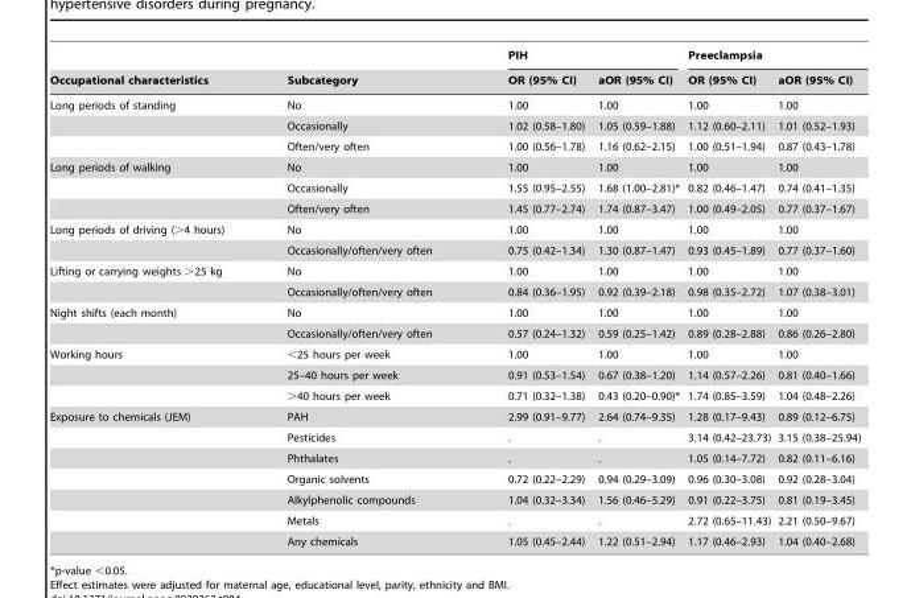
<table><thead><tr><td rowspan="2">Occupational characteristics</td><td rowspan="2">Subcategory</td><td colspan="2">PIH</td><td colspan="2">Preeclampsia</td></tr><tr><td>OR (95% CI)</td><td>aOR (95% CI)</td><td>OR (95% CI)</td><td>aOR (95% CI)</td></tr></thead><tbody><tr><td rowspan="3">Long periods of standing</td><td>No</td><td>1.00</td><td>1.00</td><td>1.00</td><td>1.00</td></tr><tr><td>Occasionally</td><td>1.02 (0.58–1.80)</td><td>1.05 (0.59–1.88)</td><td>1.12 (0.60–2.11)</td><td>1.01 (0.52–1.93)</td></tr><tr><td>Often/very often</td><td>1.00 (0.56–1.78)</td><td>1.16 (0.62–2.15)</td><td>1.00 (0.51–1.94)</td><td>0.87 (0.43–1.78)</td></tr><tr><td rowspan="3">Long periods of walking</td><td>No</td><td>1.00</td><td>1.00</td><td>1.00</td><td>1.00</td></tr><tr><td>Occasionally</td><td>1.55 (0.95–2.55)</td><td>1.68 (1.00–2.81)*</td><td>0.82 (0.46–1.47)</td><td>0.74 (0.41–1.35)</td></tr><tr><td>Often/very often</td><td>1.45 (0.77–2.74)</td><td>1.74 (0.87–3.47)</td><td>1.00 (0.49–2.05)</td><td>0.77 (0.37–1.67)</td></tr><tr><td rowspan="2">Long periods of driving (&gt;4 hours)</td><td>No</td><td>1.00</td><td>1.00</td><td>1.00</td><td>1.00</td></tr><tr><td>Occasionally/often/very often</td><td>0.75 (0.42–1.34)</td><td>1.30 (0.87–1.47)</td><td>0.93 (0.45–1.89)</td><td>0.77 (0.37–1.60)</td></tr><tr><td rowspan="2">Lifting or carrying weights &gt;25 kg</td><td>No</td><td>1.00</td><td>1.00</td><td>1.00</td><td>1.00</td></tr><tr><td>Occasionally/often/very often</td><td>0.84 (0.36–1.95)</td><td>0.92 (0.39–2.18)</td><td>0.98 (0.35–2.72)</td><td>1.07 (0.38–3.01)</td></tr><tr><td rowspan="2">Night shifts (each month)</td><td>No</td><td>1.00</td><td>1.00</td><td>1.00</td><td>1.00</td></tr><tr><td>Occasionally/often/very often</td><td>0.57 (0.24–1.32)</td><td>0.59 (0.25–1.42)</td><td>0.89 (0.28–2.88)</td><td>0.86 (0.26–2.80)</td></tr><tr><td rowspan="3">Working hours</td><td>&lt;25 hours per week</td><td>1.00</td><td>1.00</td><td>1.00</td><td>1.00</td></tr><tr><td>25–40 hours per week</td><td>0.91 (0.53–1.54)</td><td>0.67 (0.38–1.20)</td><td>1.14 (0.57–2.26)</td><td>0.81 (0.40–1.66)</td></tr><tr><td>&gt;40 hours per week</td><td>0.71 (0.32–1.38)</td><td>0.43 (0.20–0.90)*</td><td>1.74 (0.85–3.59)</td><td>1.04 (0.48–2.26)</td></tr><tr><td rowspan="7">Exposure to chemicals (JEM)</td><td>PAH</td><td>2.99 (0.91–9.77)</td><td>2.64 (0.74–9.35)</td><td>1.28 (0.17–9.43)</td><td>0.89 (0.12–6.75)</td></tr><tr><td>Pesticides</td><td>.</td><td>.</td><td>3.14 (0.42–23.73)</td><td>3.15 (0.38–25.94)</td></tr><tr><td>Phthalates</td><td>.</td><td>.</td><td>1.05 (0.14–7.72)</td><td>0.82 (0.11–6.16)</td></tr><tr><td>Organic solvents</td><td>0.72 (0.22–2.29)</td><td>0.94 (0.29–3.09)</td><td>0.96 (0.30–3.08)</td><td>0.92 (0.28–3.04)</td></tr><tr><td>Alkylphenolic compounds</td><td>1.04 (0.32–3.34)</td><td>1.56 (0.46–5.29)</td><td>0.91 (0.22–3.75)</td><td>0.81 (0.19–3.45)</td></tr><tr><td>Metals</td><td>.</td><td>.</td><td>2.72 (0.65–11.43)</td><td>2.21 (0.50–9.67)</td></tr><tr><td>Any chemicals</td><td>1.05 (0.45–2.44)</td><td>1.22 (0.51–2.94)</td><td>1.17 (0.46–2.93)</td><td>1.04 (0.40–2.68)</td></tr></tbody></table>